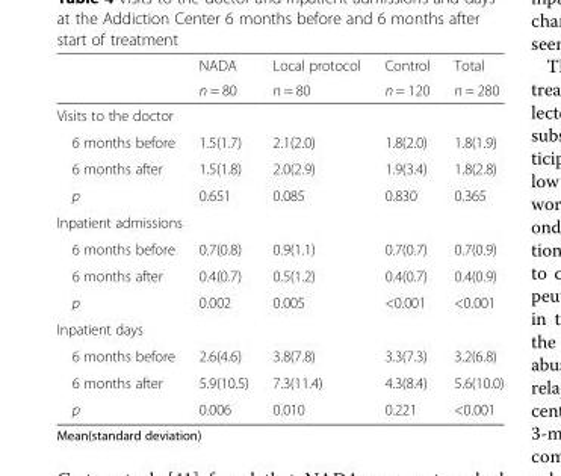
<table><thead><tr><td rowspan="2"></td><td rowspan="2">NADA n = 80</td><td rowspan="2">Local protocol n = 80</td><td rowspan="2">Control n = 120</td><td rowspan="2">Total n = 280</td></tr><tr></tr></thead><tbody><tr><td colspan="5">Visits to the doctor</td></tr><tr><td>6 months before</td><td>1.5(1.7)</td><td>2.1(2.0)</td><td>1.8(2.0)</td><td>1.8(1.9)</td></tr><tr><td>6 months after</td><td>1.5(1.8)</td><td>2.0(2.9)</td><td>1.9(3.4)</td><td>1.8(2.8)</td></tr><tr><td>p</td><td>0.651</td><td>0.085</td><td>0.830</td><td>0.365</td></tr><tr><td colspan="5">Inpatient admissions</td></tr><tr><td>6 months before</td><td>0.7(0.8)</td><td>0.9(1.1)</td><td>0.7(0.7)</td><td>0.7(0.9)</td></tr><tr><td>6 months after</td><td>0.4(0.7)</td><td>0.5(1.2)</td><td>0.4(0.7)</td><td>0.4(0.9)</td></tr><tr><td>p</td><td>0.002</td><td>0.005</td><td>&lt;0.001</td><td>&lt;0.001</td></tr><tr><td colspan="5">Inpatient days</td></tr><tr><td>6 months before</td><td>2.6(4.6)</td><td>3.8(7.8)</td><td>3.3(7.3)</td><td>3.2(6.8)</td></tr><tr><td>6 months after</td><td>5.9(10.5)</td><td>7.3(11.4)</td><td>4.3(8.4)</td><td>5.6(10.0)</td></tr><tr><td>p</td><td>0.006</td><td>0.010</td><td>0.221</td><td>&lt;0.001</td></tr></tbody></table>